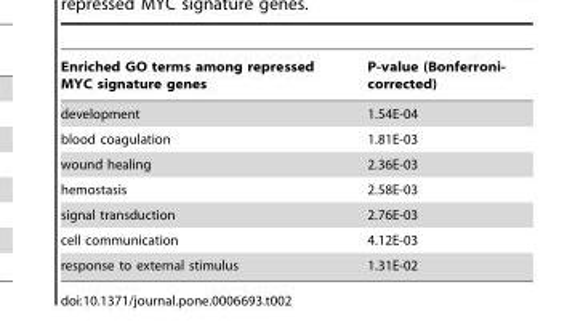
<table><thead><tr><td>Enriched GO terms among repressed MYC signature genes</td><td>P-value (Bonferroni- corrected)</td></tr></thead><tbody><tr><td>development</td><td>1.54E-04</td></tr><tr><td>blood coagulation</td><td>1.81E-03</td></tr><tr><td>wound healing</td><td>2.36E-03</td></tr><tr><td>hemostasis</td><td>2.58E-03</td></tr><tr><td>signal transduction</td><td>2.76E-03</td></tr><tr><td>cell communication</td><td>4.12E-03</td></tr><tr><td>response to external stimulus</td><td>1.31E-02</td></tr></tbody></table>